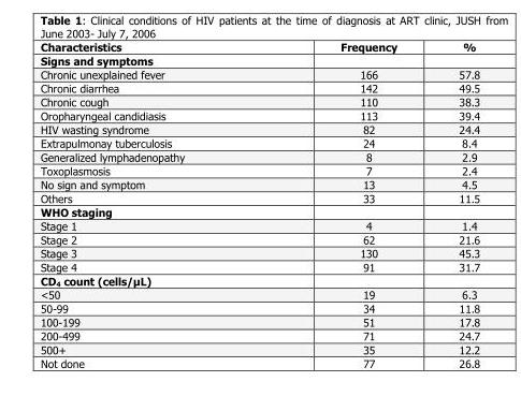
<table><thead><tr><td>Characteristics</td><td>Frequency</td><td>%</td></tr></thead><tbody><tr><td colspan="3">Signs and symptoms</td></tr><tr><td>Chronic unexplained fever</td><td>166</td><td>57.8</td></tr><tr><td>Chronic diarrhea</td><td>142</td><td>49.5</td></tr><tr><td>Chronic cough</td><td>110</td><td>38.3</td></tr><tr><td>Oropharyngeal candidiasis</td><td>113</td><td>39.4</td></tr><tr><td>HIV wasting syndrome</td><td>82</td><td>24.4</td></tr><tr><td>Extrapulmonay tuberculosis</td><td>24</td><td>8.4</td></tr><tr><td>Generalized lymphadenopathy</td><td>8</td><td>2.9</td></tr><tr><td>Toxoplasmosis</td><td>7</td><td>2.4</td></tr><tr><td>No sign and symptom</td><td>13</td><td>4.5</td></tr><tr><td>Others</td><td>33</td><td>11.5</td></tr><tr><td colspan="3">WHO staging</td></tr><tr><td>Stage 1</td><td>4</td><td>1.4</td></tr><tr><td>Stage 2</td><td>62</td><td>21.6</td></tr><tr><td>Stage 3</td><td>130</td><td>45.3</td></tr><tr><td>Stage 4</td><td>91</td><td>31.7</td></tr><tr><td colspan="3">CD4 count (cells/μL)</td></tr><tr><td>&lt;50</td><td>19</td><td>6.3</td></tr><tr><td>50-99</td><td>34</td><td>11.8</td></tr><tr><td>100-199</td><td>51</td><td>17.8</td></tr><tr><td>200-499</td><td>71</td><td>24.7</td></tr><tr><td>500+</td><td>35</td><td>12.2</td></tr><tr><td>Not done</td><td>77</td><td>26.8</td></tr></tbody></table>